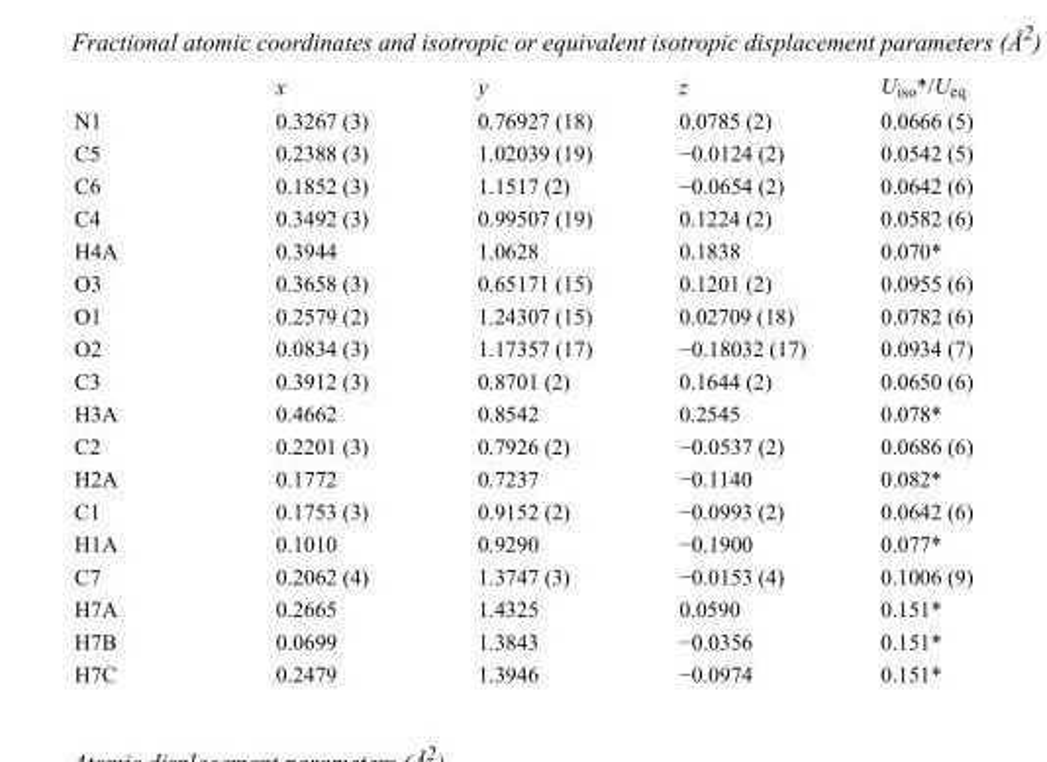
<table><thead><tr><td></td><td>x</td><td>y</td><td>z</td><td>U<sub>iso</sub>*/U<sub>eq</sub></td></tr></thead><tbody><tr><td>N1</td><td>0.3267 (3)</td><td>0.76927 (18)</td><td>0.0785 (2)</td><td>0.0666 (5)</td></tr><tr><td>C5</td><td>0.2388 (3)</td><td>1.02039 (19)</td><td>−0.0124 (2)</td><td>0.0542 (5)</td></tr><tr><td>C6</td><td>0.1852 (3)</td><td>1.1517 (2)</td><td>−0.0654 (2)</td><td>0.0642 (6)</td></tr><tr><td>C4</td><td>0.3492 (3)</td><td>0.99507 (19)</td><td>0.1224 (2)</td><td>0.0582 (6)</td></tr><tr><td>H4A</td><td>0.3944</td><td>1.0628</td><td>0.1838</td><td>0.070*</td></tr><tr><td>O3</td><td>0.3658 (3)</td><td>0.65171 (15)</td><td>0.1201 (2)</td><td>0.0955 (6)</td></tr><tr><td>O1</td><td>0.2579 (2)</td><td>1.24307 (15)</td><td>0.02709 (18)</td><td>0.0782 (6)</td></tr><tr><td>O2</td><td>0.0834 (3)</td><td>1.17357 (17)</td><td>−0.18032 (17)</td><td>0.0934 (7)</td></tr><tr><td>C3</td><td>0.3912 (3)</td><td>0.8701 (2)</td><td>0.1644 (2)</td><td>0.0650 (6)</td></tr><tr><td>H3A</td><td>0.4662</td><td>0.8542</td><td>0.2545</td><td>0.078*</td></tr><tr><td>C2</td><td>0.2201 (3)</td><td>0.7926 (2)</td><td>−0.0537 (2)</td><td>0.0686 (6)</td></tr><tr><td>H2A</td><td>0.1772</td><td>0.7237</td><td>−0.1140</td><td>0.082*</td></tr><tr><td>C1</td><td>0.1753 (3)</td><td>0.9152 (2)</td><td>−0.0993 (2)</td><td>0.0642 (6)</td></tr><tr><td>H1A</td><td>0.1010</td><td>0.9290</td><td>−0.1900</td><td>0.077*</td></tr><tr><td>C7</td><td>0.2062 (4)</td><td>1.3747 (3)</td><td>−0.0153 (4)</td><td>0.1006 (9)</td></tr><tr><td>H7A</td><td>0.2665</td><td>1.4325</td><td>0.0590</td><td>0.151*</td></tr><tr><td>H7B</td><td>0.0699</td><td>1.3843</td><td>−0.0356</td><td>0.151*</td></tr><tr><td>H7C</td><td>0.2479</td><td>1.3946</td><td>−0.0974</td><td>0.151*</td></tr></tbody></table>